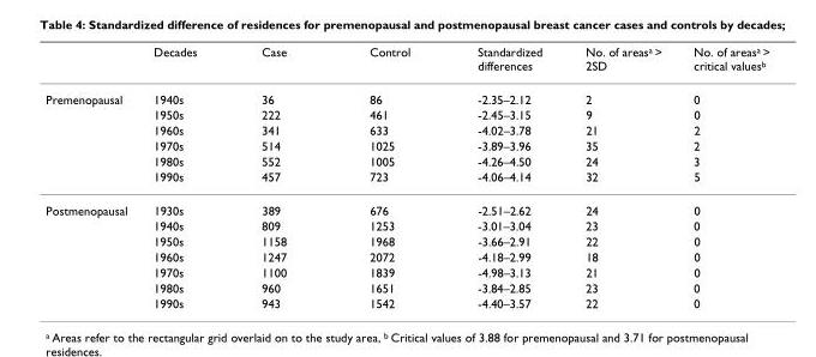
<table><thead><tr><td></td><td>Decades</td><td>Case</td><td>Control</td><td>Standardized differences</td><td>No. of areas<sup>a</sup> &gt; 2SD</td><td>No. of areas<sup>a</sup> &gt; critical values<sup>b</sup></td></tr></thead><tbody><tr><td rowspan="6">Premenopausal</td><td>1940s</td><td>36</td><td>86</td><td>-2.35–2.12</td><td>2</td><td>0</td></tr><tr><td>1950s</td><td>222</td><td>461</td><td>-2.45–3.15</td><td>9</td><td>0</td></tr><tr><td>1960s</td><td>341</td><td>633</td><td>-4.02–3.78</td><td>21</td><td>2</td></tr><tr><td>1970s</td><td>514</td><td>1025</td><td>-3.89–3.96</td><td>35</td><td>2</td></tr><tr><td>1980s</td><td>552</td><td>1005</td><td>-4.26–4.50</td><td>24</td><td>3</td></tr><tr><td>1990s</td><td>457</td><td>723</td><td>-4.06–4.14</td><td>32</td><td>5</td></tr><tr><td rowspan="7">Postmenopausal</td><td>1930s</td><td>389</td><td>676</td><td>-2.51–2.62</td><td>24</td><td>0</td></tr><tr><td>1940s</td><td>809</td><td>1253</td><td>-3.01–3.04</td><td>23</td><td>0</td></tr><tr><td>1950s</td><td>1158</td><td>1968</td><td>-3.66–2.91</td><td>22</td><td>0</td></tr><tr><td>1960s</td><td>1247</td><td>2072</td><td>-4.18–2.99</td><td>18</td><td>0</td></tr><tr><td>1970s</td><td>1100</td><td>1839</td><td>-4.98–3.13</td><td>21</td><td>0</td></tr><tr><td>1980s</td><td>960</td><td>1651</td><td>-3.84–2.85</td><td>23</td><td>0</td></tr><tr><td>1990s</td><td>943</td><td>1542</td><td>-4.40–3.57</td><td>22</td><td>0</td></tr></tbody></table>